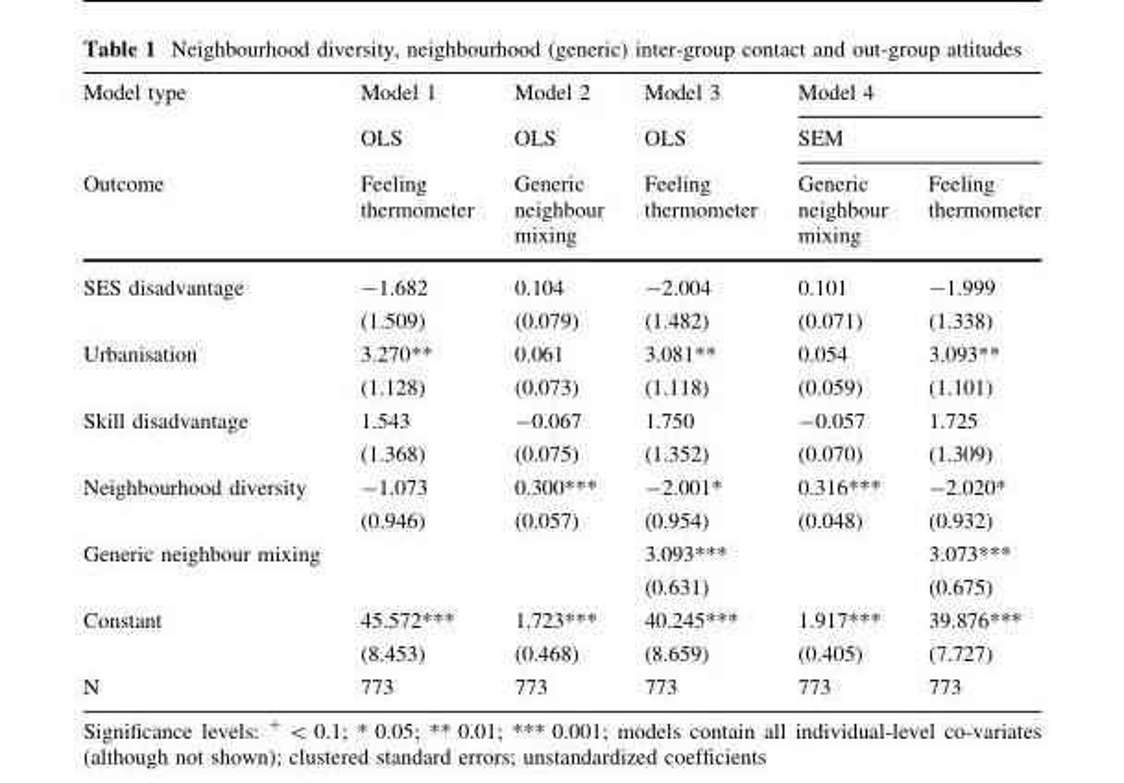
<table><thead><tr><td rowspan="3">Model type Outcome</td><td rowspan="3">Model 1 OLS Feeling thermometer</td><td rowspan="3">Model 2 OLS Generic neighbour mixing</td><td rowspan="3">Model 3 OLS Feeling thermometer</td><td rowspan="2" colspan="2">Model 4 SEM</td></tr><tr></tr><tr><td>Generic neighbour mixing</td><td>Feeling thermometer</td></tr></thead><tbody><tr><td rowspan="2">SES disadvantage</td><td>-1.682</td><td>0.104</td><td>-2.004</td><td>0.101</td><td>-1.999</td></tr><tr><td>(1.509)</td><td>(0.079)</td><td>(1.482)</td><td>(0.071)</td><td>(1.338)</td></tr><tr><td rowspan="2">Urbanisation</td><td>3.270**</td><td>0.061</td><td>3.081**</td><td>0.054</td><td>3.093**</td></tr><tr><td>(1.128)</td><td>(0.073)</td><td>(1.118)</td><td>(0.059)</td><td>(1.101)</td></tr><tr><td rowspan="2">Skill disadvantage</td><td>1.543</td><td>-0.067</td><td>1.750</td><td>-0.057</td><td>1.725</td></tr><tr><td>(1.368)</td><td>(0.075)</td><td>(1.352)</td><td>(0.070)</td><td>(1.309)</td></tr><tr><td rowspan="2">Neighbourhood diversity</td><td>-1.073</td><td>0.300***</td><td>-2.001*</td><td>0.316***</td><td>-2.020*</td></tr><tr><td>(0.946)</td><td>(0.057)</td><td>(0.954)</td><td>(0.048)</td><td>(0.932)</td></tr><tr><td rowspan="2">Generic neighbour mixing</td><td></td><td></td><td>3.093***</td><td></td><td>3.073***</td></tr><tr><td></td><td></td><td>(0.631)</td><td></td><td>(0.675)</td></tr><tr><td rowspan="2">Constant</td><td>45.572***</td><td>1.723***</td><td>40.245***</td><td>1.917***</td><td>39.876***</td></tr><tr><td>(8.453)</td><td>(0.468)</td><td>(8.659)</td><td>(0.405)</td><td>(7.727)</td></tr><tr><td>N</td><td>773</td><td>773</td><td>773</td><td>773</td><td>773</td></tr></tbody></table>